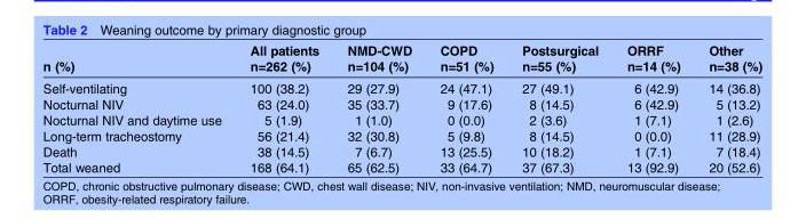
<table><thead><tr><td>n (%)</td><td>All patients n=262 (%)</td><td>NMD-CWD n=104 (%)</td><td>COPD n=51 (%)</td><td>Postsurgical n=55 (%)</td><td>ORRF n=14 (%)</td><td>Other n=38 (%)</td></tr></thead><tbody><tr><td>Self-ventilating</td><td>100 (38.2)</td><td>29 (27.9)</td><td>24 (47.1)</td><td>27 (49.1)</td><td>6 (42.9)</td><td>14 (36.8)</td></tr><tr><td>Nocturnal NIV</td><td>63 (24.0)</td><td>35 (33.7)</td><td>9 (17.6)</td><td>8 (14.5)</td><td>6 (42.9)</td><td>5 (13.2)</td></tr><tr><td>Nocturnal NIV and daytime use</td><td>5 (1.9)</td><td>1 (1.0)</td><td>0 (0.0)</td><td>2 (3.6)</td><td>1 (7.1)</td><td>1 (2.6)</td></tr><tr><td>Long-term tracheostomy</td><td>56 (21.4)</td><td>32 (30.8)</td><td>5 (9.8)</td><td>8 (14.5)</td><td>0 (0.0)</td><td>11 (28.9)</td></tr><tr><td>Death</td><td>38 (14.5)</td><td>7 (6.7)</td><td>13 (25.5)</td><td>10 (18.2)</td><td>1 (7.1)</td><td>7 (18.4)</td></tr><tr><td>Total weaned</td><td>168 (64.1)</td><td>65 (62.5)</td><td>33 (64.7)</td><td>37 (67.3)</td><td>13 (92.9)</td><td>20 (52.6)</td></tr></tbody></table>